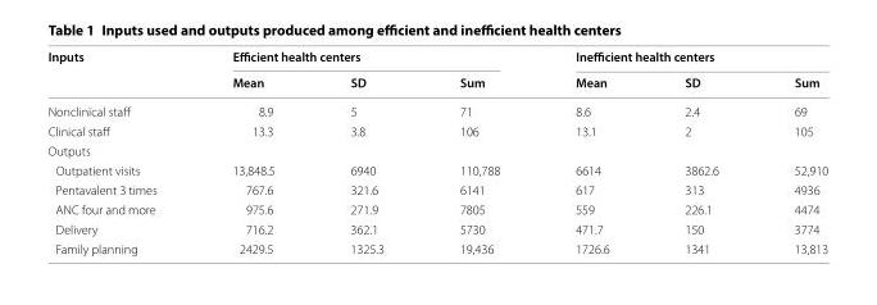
<table><thead><tr><td rowspan="2">Inputs</td><td colspan="3">Efficient health centers</td><td colspan="3">Inefficient health centers</td></tr><tr><td>Mean</td><td>SD</td><td>Sum</td><td>Mean</td><td>SD</td><td>Sum</td></tr></thead><tbody><tr><td>Nonclinical staff</td><td>8.9</td><td>5</td><td>71</td><td>8.6</td><td>2.4</td><td>69</td></tr><tr><td>Clinical staff</td><td>13.3</td><td>3.8</td><td>106</td><td>13.1</td><td>2</td><td>105</td></tr><tr><td colspan="7">Outputs</td></tr><tr><td>Outpatient visits</td><td>13,848.5</td><td>6940</td><td>110,788</td><td>6614</td><td>3862.6</td><td>52,910</td></tr><tr><td>Pentavalent 3 times</td><td>767.6</td><td>321.6</td><td>6141</td><td>617</td><td>313</td><td>4936</td></tr><tr><td>ANC four and more</td><td>975.6</td><td>271.9</td><td>7805</td><td>559</td><td>226.1</td><td>4474</td></tr><tr><td>Delivery</td><td>716.2</td><td>362.1</td><td>5730</td><td>471.7</td><td>150</td><td>3774</td></tr><tr><td>Family planning</td><td>2429.5</td><td>1325.3</td><td>19,436</td><td>1726.6</td><td>1341</td><td>13,813</td></tr></tbody></table>